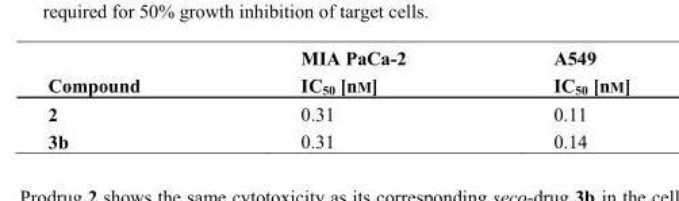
<table><thead><tr><td>Compound</td><td>MIA PaCa-2 IC<sub>50</sub> [nM]</td><td>A549 IC<sub>50</sub> [nM]</td></tr></thead><tbody><tr><td>2</td><td>0.31</td><td>0.11</td></tr><tr><td>3b</td><td>0.31</td><td>0.14</td></tr></tbody></table>